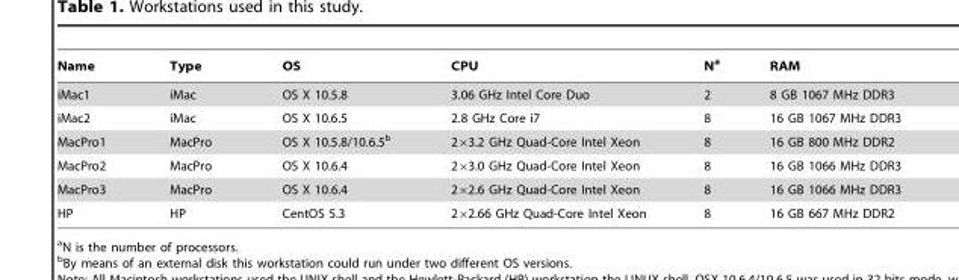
<table><thead><tr><td>Name</td><td>Type</td><td>OS</td><td>CPU</td><td>N<sup>a</sup></td><td>RAM</td></tr></thead><tbody><tr><td>iMac1</td><td>iMac</td><td>OS X 10.5.8</td><td>3.06 GHz Intel Core Duo</td><td>2</td><td>8 GB 1067 MHz DDR3</td></tr><tr><td>iMac2</td><td>iMac</td><td>OS X 10.6.5</td><td>2.8 GHz Core i7</td><td>8</td><td>16 GB 1067 MHz DDR3</td></tr><tr><td>MacPro1</td><td>MacPro</td><td>OS X 10.5.8/10.6.5<sup>b</sup></td><td>2×3.2 GHz Quad-Core Intel Xeon</td><td>8</td><td>16 GB 800 MHz DDR2</td></tr><tr><td>MacPro2</td><td>MacPro</td><td>OS X 10.6.4</td><td>2×3.0 GHz Quad-Core Intel Xeon</td><td>8</td><td>16 GB 1066 MHz DDR3</td></tr><tr><td>MacPro3</td><td>MacPro</td><td>OS X 10.6.4</td><td>2×2.6 GHz Quad-Core Intel Xeon</td><td>8</td><td>16 GB 1066 MHz DDR3</td></tr><tr><td>HP</td><td>HP</td><td>CentOS 5.3</td><td>2×2.66 GHz Quad-Core Intel Xeon</td><td>8</td><td>16 GB 667 MHz DDR2</td></tr></tbody></table>